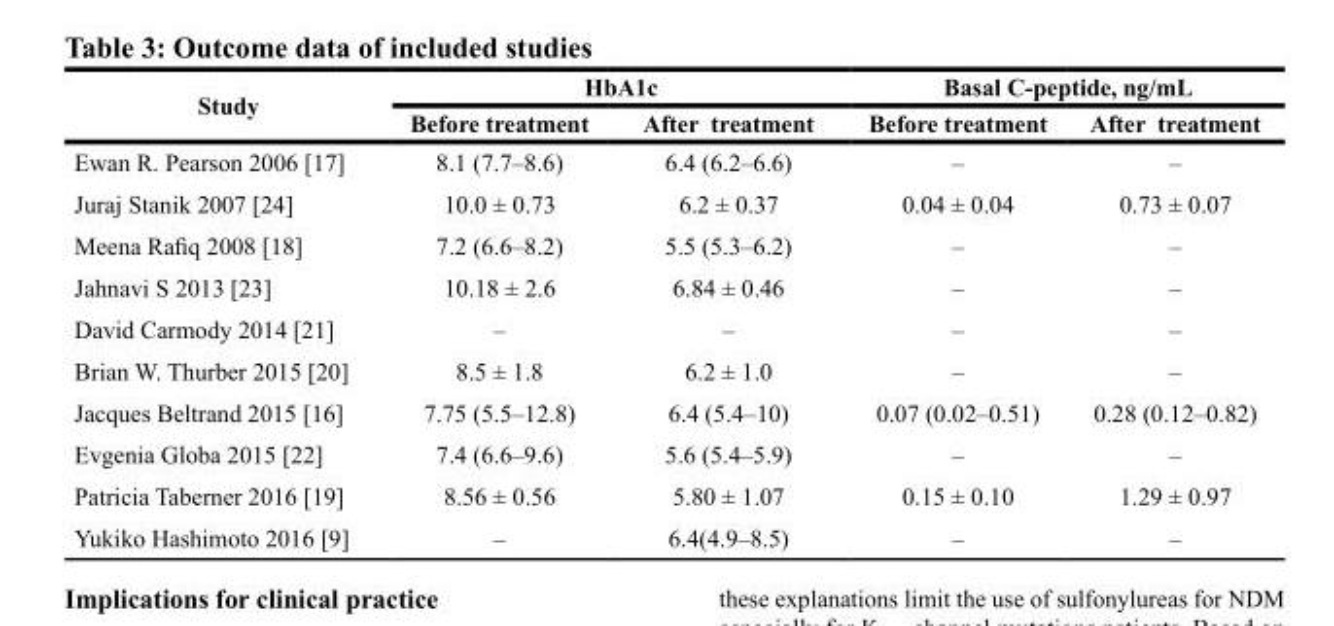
<table><thead><tr><td rowspan="2">Study</td><td colspan="2">HbA1c</td><td colspan="2">Basal C-peptide, ng/mL</td></tr><tr><td>Before treatment</td><td>After treatment</td><td>Before treatment</td><td>After treatment</td></tr></thead><tbody><tr><td>Ewan R. Pearson 2006 [17]</td><td>8.1 (7.7–8.6)</td><td>6.4 (6.2–6.6)</td><td>–</td><td>–</td></tr><tr><td>Juraj Stanik 2007 [24]</td><td>10.0 ± 0.73</td><td>6.2 ± 0.37</td><td>0.04 ± 0.04</td><td>0.73 ± 0.07</td></tr><tr><td>Meena Rafiq 2008 [18]</td><td>7.2 (6.6–8.2)</td><td>5.5 (5.3–6.2)</td><td>–</td><td>–</td></tr><tr><td>Jahnavi S 2013 [23]</td><td>10.18 ± 2.6</td><td>6.84 ± 0.46</td><td>–</td><td>–</td></tr><tr><td>David Carmody 2014 [21]</td><td>–</td><td>–</td><td>–</td><td>–</td></tr><tr><td>Brian W. Thurber 2015 [20]</td><td>8.5 ± 1.8</td><td>6.2 ± 1.0</td><td>–</td><td>–</td></tr><tr><td>Jacques Beltrand 2015 [16]</td><td>7.75 (5.5–12.8)</td><td>6.4 (5.4–10)</td><td>0.07 (0.02–0.51)</td><td>0.28 (0.12–0.82)</td></tr><tr><td>Evgenia Globa 2015 [22]</td><td>7.4 (6.6–9.6)</td><td>5.6 (5.4–5.9)</td><td>–</td><td>–</td></tr><tr><td>Patricia Taberner 2016 [19]</td><td>8.56 ± 0.56</td><td>5.80 ± 1.07</td><td>0.15 ± 0.10</td><td>1.29 ± 0.97</td></tr><tr><td>Yukiko Hashimoto 2016 [9]</td><td>–</td><td>6.4(4.9–8.5)</td><td>–</td><td>–</td></tr></tbody></table>